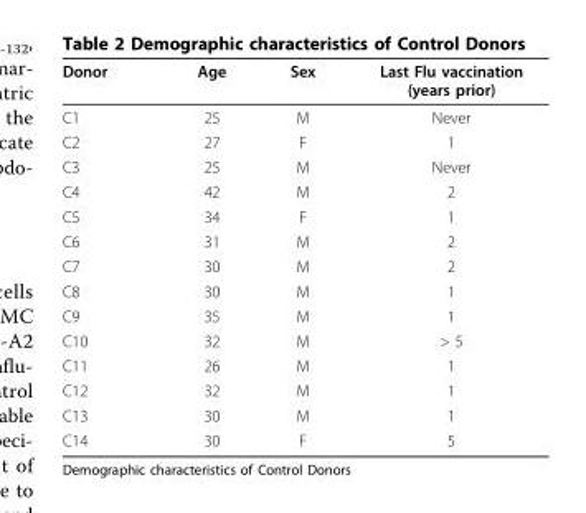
<table><thead><tr><td>Donor</td><td>Age</td><td>Sex</td><td>Last Flu vaccination (years prior)</td></tr></thead><tbody><tr><td>C1</td><td>25</td><td>M</td><td>Never</td></tr><tr><td>C2</td><td>27</td><td>F</td><td>1</td></tr><tr><td>C3</td><td>25</td><td>M</td><td>Never</td></tr><tr><td>C4</td><td>42</td><td>M</td><td>2</td></tr><tr><td>C5</td><td>34</td><td>F</td><td>1</td></tr><tr><td>C6</td><td>31</td><td>M</td><td>2</td></tr><tr><td>C7</td><td>30</td><td>M</td><td>2</td></tr><tr><td>C8</td><td>30</td><td>M</td><td>1</td></tr><tr><td>C9</td><td>35</td><td>M</td><td>1</td></tr><tr><td>C10</td><td>32</td><td>M</td><td>&gt; 5</td></tr><tr><td>C11</td><td>26</td><td>M</td><td>1</td></tr><tr><td>C12</td><td>32</td><td>M</td><td>1</td></tr><tr><td>C13</td><td>30</td><td>M</td><td>1</td></tr><tr><td>C14</td><td>30</td><td>F</td><td>5</td></tr></tbody></table>